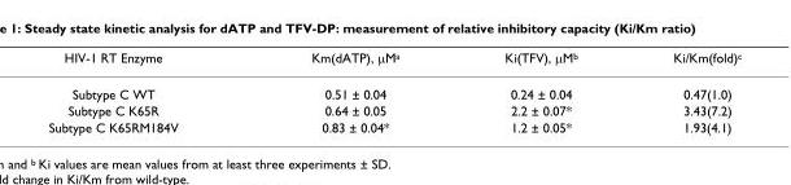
<table><thead><tr><td>HIV-1 RT Enzyme</td><td>Km(dATP), μM<sup>a</sup></td><td>Ki(TFV), μM<sup>b</sup></td><td>Ki/Km(fold)<sup>c</sup></td></tr></thead><tbody><tr><td>Subtype C WT</td><td>0.51 ± 0.04</td><td>0.24 ± 0.04</td><td>0.47(1.0)</td></tr><tr><td>Subtype C K65R</td><td>0.64 ± 0.05</td><td>2.2 ± 0.07*</td><td>3.43(7.2)</td></tr><tr><td>Subtype C K65RM184V</td><td>0.83 ± 0.04*</td><td>1.2 ± 0.05*</td><td>1.93(4.1)</td></tr></tbody></table>